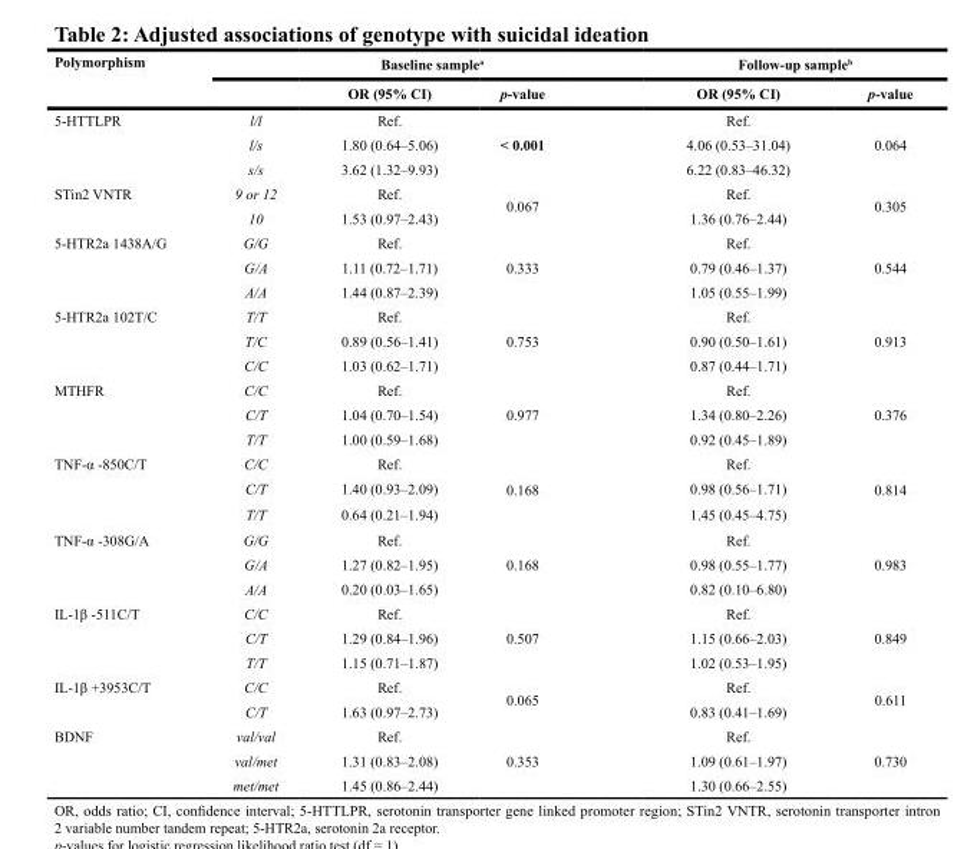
<table><thead><tr><td rowspan="2">Polymorphism</td><td rowspan="2"></td><td colspan="2">Baseline sample<sup>a</sup></td><td colspan="2">Follow-up sample<sup>b</sup></td></tr><tr><td>OR (95% CI)</td><td>p-value</td><td>OR (95% CI)</td><td>p-value</td></tr></thead><tbody><tr><td rowspan="3">5-HTTLPR</td><td>l/l</td><td>Ref.</td><td rowspan="3">&lt; 0.001</td><td>Ref.</td><td rowspan="3">0.064</td></tr><tr><td>l/s</td><td>1.80 (0.64–5.06)</td><td>4.06 (0.53–31.04)</td></tr><tr><td>s/s</td><td>3.62 (1.32–9.93)</td><td>6.22 (0.83–46.32)</td></tr><tr><td rowspan="2">STin2 VNTR</td><td>9 or 12</td><td>Ref.</td><td rowspan="2">0.067</td><td>Ref.</td><td rowspan="2">0.305</td></tr><tr><td>10</td><td>1.53 (0.97–2.43)</td><td>1.36 (0.76–2.44)</td></tr><tr><td rowspan="3">5-HTR2a 1438A/G</td><td>G/G</td><td>Ref.</td><td rowspan="3">0.333</td><td>Ref.</td><td rowspan="3">0.544</td></tr><tr><td>G/A</td><td>1.11 (0.72–1.71)</td><td>0.79 (0.46–1.37)</td></tr><tr><td>A/A</td><td>1.44 (0.87–2.39)</td><td>1.05 (0.55–1.99)</td></tr><tr><td rowspan="3">5-HTR2a 102T/C</td><td>T/T</td><td>Ref.</td><td rowspan="3">0.753</td><td>Ref.</td><td rowspan="3">0.913</td></tr><tr><td>T/C</td><td>0.89 (0.56–1.41)</td><td>0.90 (0.50–1.61)</td></tr><tr><td>C/C</td><td>1.03 (0.62–1.71)</td><td>0.87 (0.44–1.71)</td></tr><tr><td rowspan="3">MTHFR</td><td>C/C</td><td>Ref.</td><td rowspan="3">0.977</td><td>Ref.</td><td rowspan="3">0.376</td></tr><tr><td>C/T</td><td>1.04 (0.70–1.54)</td><td>1.34 (0.80–2.26)</td></tr><tr><td>T/T</td><td>1.00 (0.59–1.68)</td><td>0.92 (0.45–1.89)</td></tr><tr><td rowspan="3">TNF-α -850C/T</td><td>C/C</td><td>Ref.</td><td rowspan="3">0.168</td><td>Ref.</td><td rowspan="3">0.814</td></tr><tr><td>C/T</td><td>1.40 (0.93–2.09)</td><td>0.98 (0.56–1.71)</td></tr><tr><td>T/T</td><td>0.64 (0.21–1.94)</td><td>1.45 (0.45–4.75)</td></tr><tr><td rowspan="3">TNF-α -308G/A</td><td>G/G</td><td>Ref.</td><td rowspan="3">0.168</td><td>Ref.</td><td rowspan="3">0.983</td></tr><tr><td>G/A</td><td>1.27 (0.82–1.95)</td><td>0.98 (0.55–1.77)</td></tr><tr><td>A/A</td><td>0.20 (0.03–1.65)</td><td>0.82 (0.10–6.80)</td></tr><tr><td rowspan="3">IL-1β -511C/T</td><td>C/C</td><td>Ref.</td><td rowspan="3">0.507</td><td>Ref.</td><td rowspan="3">0.849</td></tr><tr><td>C/T</td><td>1.29 (0.84–1.96)</td><td>1.15 (0.66–2.03)</td></tr><tr><td>T/T</td><td>1.15 (0.71–1.87)</td><td>1.02 (0.53–1.95)</td></tr><tr><td rowspan="2">IL-1β +3953C/T</td><td>C/C</td><td>Ref.</td><td rowspan="2">0.065</td><td>Ref.</td><td rowspan="2">0.611</td></tr><tr><td>C/T</td><td>1.63 (0.97–2.73)</td><td>0.83 (0.41–1.69)</td></tr><tr><td rowspan="3">BDNF</td><td>val/val</td><td>Ref.</td><td rowspan="3">0.353</td><td>Ref.</td><td rowspan="3">0.730</td></tr><tr><td>val/met</td><td>1.31 (0.83–2.08)</td><td>1.09 (0.61–1.97)</td></tr><tr><td>met/met</td><td>1.45 (0.86–2.44)</td><td>1.30 (0.66–2.55)</td></tr></tbody></table>